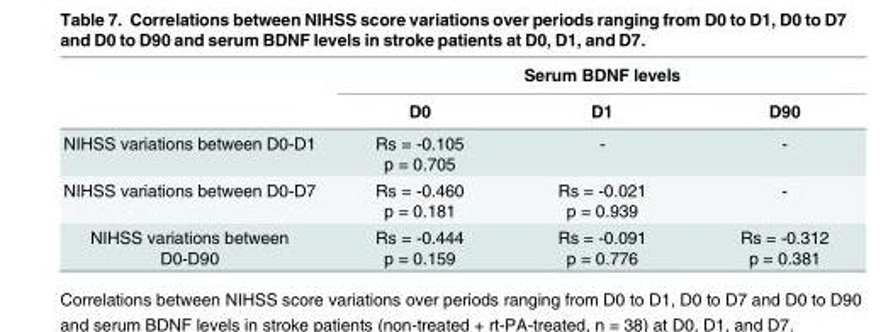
<table><thead><tr><td rowspan="2"></td><td colspan="3">Serum BDNF levels</td></tr><tr><td>D0</td><td>D1</td><td>D90</td></tr></thead><tbody><tr><td>NIHSS variations between D0-D1</td><td>Rs = -0.105 p = 0.705</td><td>-</td><td>-</td></tr><tr><td>NIHSS variations between D0-D7</td><td>Rs = -0.460 p = 0.181</td><td>Rs = -0.021 p = 0.939</td><td>-</td></tr><tr><td>NIHSS variations between D0-D90</td><td>Rs = -0.444 p = 0.159</td><td>Rs = -0.091 p = 0.776</td><td>Rs = -0.312 p = 0.381</td></tr></tbody></table>